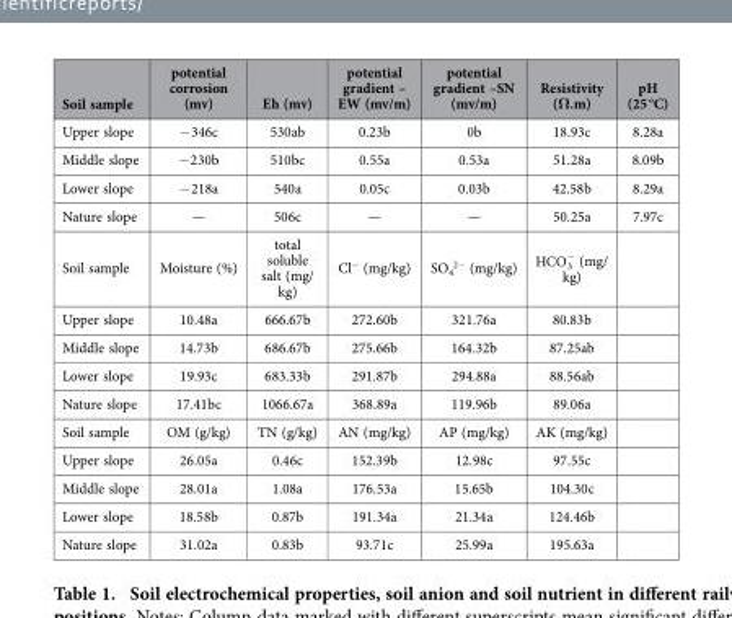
<table><thead><tr><td>Soil sample</td><td>potential corrosion (mv)</td><td>Eh (mv)</td><td>potential gradient – EW (mv/m)</td><td>potential gradient –SN (mv/m)</td><td>Resistivity (Ω.m)</td><td>pH (25 °C)</td></tr></thead><tbody><tr><td>Upper slope</td><td>− 346c</td><td>530ab</td><td>0.23b</td><td>0b</td><td>18.93c</td><td>8.28a</td></tr><tr><td>Middle slope</td><td>− 230b</td><td>510bc</td><td>0.55a</td><td>0.53a</td><td>51.28a</td><td>8.09b</td></tr><tr><td>Lower slope</td><td>− 218a</td><td>540a</td><td>0.05c</td><td>0.03b</td><td>42.58b</td><td>8.29a</td></tr><tr><td>Nature slope</td><td>—</td><td>506c</td><td>—</td><td>—</td><td>50.25a</td><td>7.97c</td></tr><tr><td>Soil sample</td><td>Moisture (%)</td><td>total soluble salt (mg/ kg)</td><td>Cl<sup>−</sup> (mg/kg)</td><td>SO<sub>4</sub> <sup>2−</sup> (mg/kg)</td><td>− HCO3 (mg/ kg)</td><td></td></tr><tr><td>Upper slope</td><td>10.48a</td><td>666.67b</td><td>272.60b</td><td>321.76a</td><td>80.83b</td><td></td></tr><tr><td>Middle slope</td><td>14.73b</td><td>686.67b</td><td>275.66b</td><td>164.32b</td><td>87.25ab</td><td></td></tr><tr><td>Lower slope</td><td>19.93c</td><td>683.33b</td><td>291.87b</td><td>294.88a</td><td>88.56ab</td><td></td></tr><tr><td>Nature slope</td><td>17.41bc</td><td>1066.67a</td><td>368.89a</td><td>119.96b</td><td>89.06a</td><td></td></tr><tr><td>Soil sample</td><td>OM (g/kg)</td><td>TN (g/kg)</td><td>AN (mg/kg)</td><td>AP (mg/kg)</td><td>AK (mg/kg)</td><td></td></tr><tr><td>Upper slope</td><td>26.05a</td><td>0.46c</td><td>152.39b</td><td>12.98c</td><td>97.55c</td><td></td></tr><tr><td>Middle slope</td><td>28.01a</td><td>1.08a</td><td>176.53a</td><td>15.65b</td><td>104.30c</td><td></td></tr><tr><td>Lower slope</td><td>18.58b</td><td>0.87b</td><td>191.34a</td><td>21.34a</td><td>124.46b</td><td></td></tr><tr><td>Nature slope</td><td>31.02a</td><td>0.83b</td><td>93.71c</td><td>25.99a</td><td>195.63a</td><td></td></tr></tbody></table>